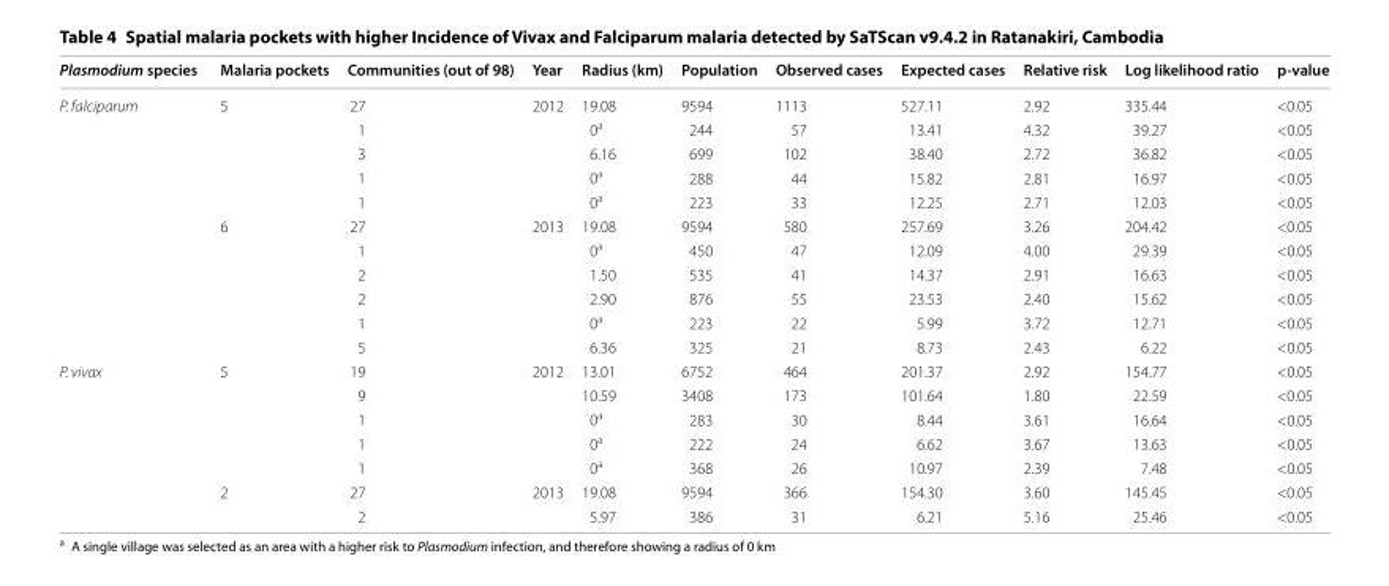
<table><thead><tr><td>Plasmodium species</td><td>Malaria pockets</td><td>Communities (out of 98)</td><td>Year</td><td>Radius (km)</td><td>Population</td><td>Observed cases</td><td>Expected cases</td><td>Relative risk</td><td>Log likelihood ratio</td><td>p-value</td></tr></thead><tbody><tr><td rowspan="11">P. falciparum</td><td rowspan="5">5</td><td>27</td><td>2012</td><td>19.08</td><td>9594</td><td>1113</td><td>527.11</td><td>2.92</td><td>335.44</td><td>&lt;0.05</td></tr><tr><td>1</td><td></td><td>0<sup>a</sup></td><td>244</td><td>57</td><td>13.41</td><td>4.32</td><td>39.27</td><td>&lt;0.05</td></tr><tr><td>3</td><td></td><td>6.16</td><td>699</td><td>102</td><td>38.40</td><td>2.72</td><td>36.82</td><td>&lt;0.05</td></tr><tr><td>1</td><td></td><td>0<sup>a</sup></td><td>288</td><td>44</td><td>15.82</td><td>2.81</td><td>16.97</td><td>&lt;0.05</td></tr><tr><td>1</td><td></td><td>0<sup>a</sup></td><td>223</td><td>33</td><td>12.25</td><td>2.71</td><td>12.03</td><td>&lt;0.05</td></tr><tr><td rowspan="6">6</td><td>27</td><td>2013</td><td>19.08</td><td>9594</td><td>580</td><td>257.69</td><td>3.26</td><td>204.42</td><td>&lt;0.05</td></tr><tr><td>1</td><td></td><td>0<sup>a</sup></td><td>450</td><td>47</td><td>12.09</td><td>4.00</td><td>29.39</td><td>&lt;0.05</td></tr><tr><td>2</td><td></td><td>1.50</td><td>535</td><td>41</td><td>14.37</td><td>2.91</td><td>16.63</td><td>&lt;0.05</td></tr><tr><td>2</td><td></td><td>2.90</td><td>876</td><td>55</td><td>23.53</td><td>2.40</td><td>15.62</td><td>&lt;0.05</td></tr><tr><td>1</td><td></td><td>0<sup>a</sup></td><td>223</td><td>22</td><td>5.99</td><td>3.72</td><td>12.71</td><td>&lt;0.05</td></tr><tr><td>5</td><td></td><td>6.36</td><td>325</td><td>21</td><td>8.73</td><td>2.43</td><td>6.22</td><td>&lt;0.05</td></tr><tr><td rowspan="7">P. vivax</td><td rowspan="5">5</td><td>19</td><td>2012</td><td>13.01</td><td>6752</td><td>464</td><td>201.37</td><td>2.92</td><td>154.77</td><td>&lt;0.05</td></tr><tr><td>9</td><td></td><td>10.59</td><td>3408</td><td>173</td><td>101.64</td><td>1.80</td><td>22.59</td><td>&lt;0.05</td></tr><tr><td>1</td><td></td><td>0<sup>a</sup></td><td>283</td><td>30</td><td>8.44</td><td>3.61</td><td>16.64</td><td>&lt;0.05</td></tr><tr><td>1</td><td></td><td>0<sup>a</sup></td><td>222</td><td>24</td><td>6.62</td><td>3.67</td><td>13.63</td><td>&lt;0.05</td></tr><tr><td>1</td><td></td><td>0<sup>a</sup></td><td>368</td><td>26</td><td>10.97</td><td>2.39</td><td>7.48</td><td>&lt;0.05</td></tr><tr><td rowspan="2">2</td><td>27</td><td>2013</td><td>19.08</td><td>9594</td><td>366</td><td>154.30</td><td>3.60</td><td>145.45</td><td>&lt;0.05</td></tr><tr><td>2</td><td></td><td>5.97</td><td>386</td><td>31</td><td>6.21</td><td>5.16</td><td>25.46</td><td>&lt;0.05</td></tr></tbody></table>